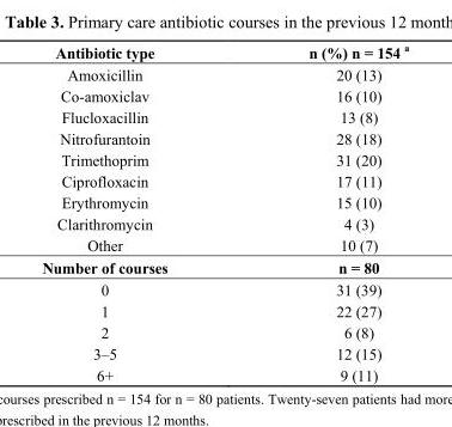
<table><tbody><tr><td>Antibiotic type</td><td>n (%) n = 154 <sup>a</sup></td></tr><tr><td>Amoxicillin</td><td>20 (13)</td></tr><tr><td>Co-amoxiclav</td><td>16 (10)</td></tr><tr><td>Flucloxacillin</td><td>13 (8)</td></tr><tr><td>Nitrofurantoin</td><td>28 (18)</td></tr><tr><td>Trimethoprim</td><td>31 (20)</td></tr><tr><td>Ciprofloxacin</td><td>17 (11)</td></tr><tr><td>Erythromycin</td><td>15 (10)</td></tr><tr><td>Clarithromycin</td><td>4 (3)</td></tr><tr><td>Other</td><td>10 (7)</td></tr><tr><td>Number of courses</td><td>n = 80</td></tr><tr><td>0</td><td>31 (39)</td></tr><tr><td>1</td><td>22 (27)</td></tr><tr><td>2</td><td>6 (8)</td></tr><tr><td>3–5</td><td>12 (15)</td></tr><tr><td>6+</td><td>9 (11)</td></tr></tbody></table>